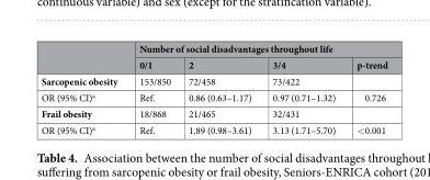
<table><thead><tr><td rowspan="2"></td><td colspan="4">Number of social disadvantages throughout life</td></tr><tr><td>0/1</td><td>2</td><td>3/4</td><td>p-trend</td></tr></thead><tbody><tr><td>Sarcopenic obesity</td><td>153/850</td><td>72/458</td><td>73/422</td><td></td></tr><tr><td>OR (95% CI)<sup>a</sup></td><td>Ref.</td><td>0.86 (0.63–1.17)</td><td>0.97 (0.71–1.32)</td><td>0.726</td></tr><tr><td>Frail obesity</td><td>18/868</td><td>21/465</td><td>32/431</td><td></td></tr><tr><td>OR (95% CI)<sup>a</sup></td><td>Ref.</td><td>1.89 (0.98–3.61)</td><td>3.13 (1.71–5.70)</td><td>&lt;0.001</td></tr></tbody></table>